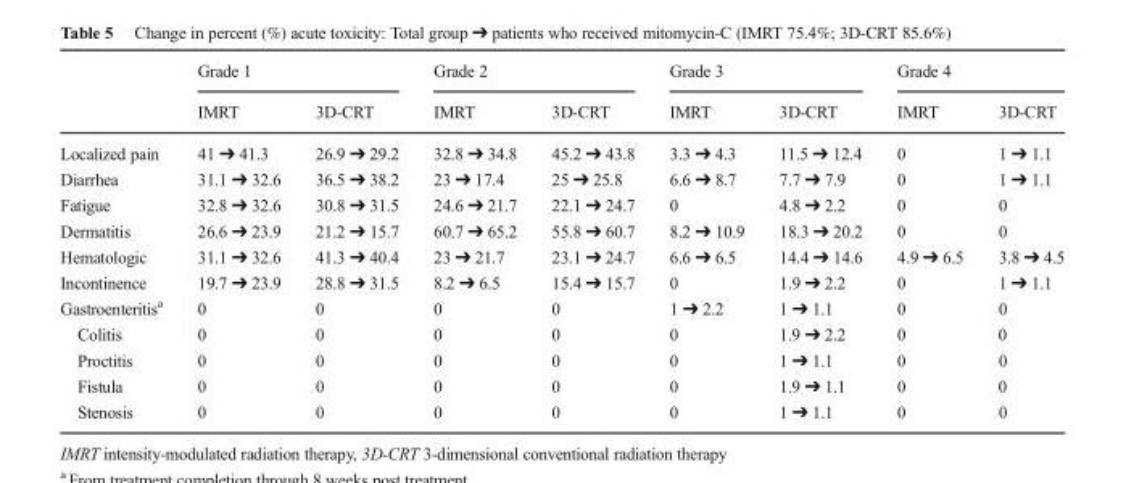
<table><thead><tr><td rowspan="2"></td><td colspan="2">Grade 1</td><td colspan="2">Grade 2</td><td colspan="2">Grade 3</td><td colspan="2">Grade 4</td></tr><tr><td>IMRT</td><td>3D-CRT</td><td>IMRT</td><td>3D-CRT</td><td>IMRT</td><td>3D-CRT</td><td>IMRT</td><td>3D-CRT</td></tr></thead><tbody><tr><td>Localized pain</td><td>41 ➔ 41.3</td><td>26.9 ➔ 29.2</td><td>32.8 ➔ 34.8</td><td>45.2 ➔ 43.8</td><td>3.3 ➔ 4.3</td><td>11.5 ➔ 12.4</td><td>0</td><td>1 ➔ 1.1</td></tr><tr><td>Diarrhea</td><td>31.1 ➔ 32.6</td><td>36.5 ➔ 38.2</td><td>23 ➔ 17.4</td><td>25 ➔ 25.8</td><td>6.6 ➔ 8.7</td><td>7.7 ➔ 7.9</td><td>0</td><td>1 ➔ 1.1</td></tr><tr><td>Fatigue</td><td>32.8 ➔ 32.6</td><td>30.8 ➔ 31.5</td><td>24.6 ➔ 21.7</td><td>22.1 ➔ 24.7</td><td>0</td><td>4.8 ➔ 2.2</td><td>0</td><td>0</td></tr><tr><td>Dermatitis</td><td>26.6 ➔ 23.9</td><td>21.2 ➔ 15.7</td><td>60.7 ➔ 65.2</td><td>55.8 ➔ 60.7</td><td>8.2 ➔ 10.9</td><td>18.3 ➔ 20.2</td><td>0</td><td>0</td></tr><tr><td>Hematologic</td><td>31.1 ➔ 32.6</td><td>41.3 ➔ 40.4</td><td>23 ➔ 21.7</td><td>23.1 ➔ 24.7</td><td>6.6 ➔ 6.5</td><td>14.4 ➔ 14.6</td><td>4.9 ➔ 6.5</td><td>3.8 ➔ 4.5</td></tr><tr><td>Incontinence</td><td>19.7 ➔ 23.9</td><td>28.8 ➔ 31.5</td><td>8.2 ➔ 6.5</td><td>15.4 ➔ 15.7</td><td>0</td><td>1.9 ➔ 2.2</td><td>0</td><td>1 ➔ 1.1</td></tr><tr><td>Gastroenteritis<sup>a</sup></td><td>0</td><td>0</td><td>0</td><td>0</td><td>1 ➔ 2.2</td><td>1 ➔ 1.1</td><td>0</td><td>0</td></tr><tr><td>Colitis</td><td>0</td><td>0</td><td>0</td><td>0</td><td>0</td><td>1.9 ➔ 2.2</td><td>0</td><td>0</td></tr><tr><td>Proctitis</td><td>0</td><td>0</td><td>0</td><td>0</td><td>0</td><td>1 ➔ 1.1</td><td>0</td><td>0</td></tr><tr><td>Fistula</td><td>0</td><td>0</td><td>0</td><td>0</td><td>0</td><td>1.9 ➔ 1.1</td><td>0</td><td>0</td></tr><tr><td>Stenosis</td><td>0</td><td>0</td><td>0</td><td>0</td><td>0</td><td>1 ➔ 1.1</td><td>0</td><td>0</td></tr></tbody></table>